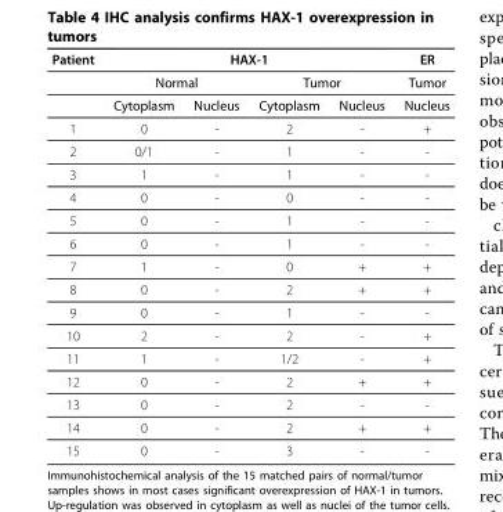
<table><thead><tr><td rowspan="3">Patient</td><td colspan="4">HAX-1</td><td rowspan="3">ER Tumor Nucleus</td></tr><tr><td colspan="2">Normal</td><td colspan="2">Tumor</td></tr><tr><td>Cytoplasm</td><td>Nucleus</td><td>Cytoplasm</td><td>Nucleus</td></tr></thead><tbody><tr><td>1</td><td>0</td><td>-</td><td>2</td><td>-</td><td>+</td></tr><tr><td>2</td><td>0/1</td><td>-</td><td>1</td><td>-</td><td>-</td></tr><tr><td>3</td><td>1</td><td>-</td><td>1</td><td>-</td><td>-</td></tr><tr><td>4</td><td>0</td><td>-</td><td>0</td><td>-</td><td>-</td></tr><tr><td>5</td><td>0</td><td>-</td><td>1</td><td>-</td><td>-</td></tr><tr><td>6</td><td>0</td><td>-</td><td>1</td><td>-</td><td>-</td></tr><tr><td>7</td><td>1</td><td>-</td><td>0</td><td>+</td><td>+</td></tr><tr><td>8</td><td>0</td><td>-</td><td>2</td><td>+</td><td>+</td></tr><tr><td>9</td><td>0</td><td>-</td><td>1</td><td>-</td><td>-</td></tr><tr><td>10</td><td>2</td><td>-</td><td>2</td><td>-</td><td>+</td></tr><tr><td>11</td><td>1</td><td>-</td><td>1/2</td><td>-</td><td>+</td></tr><tr><td>12</td><td>0</td><td>-</td><td>2</td><td>+</td><td>+</td></tr><tr><td>13</td><td>0</td><td>-</td><td>2</td><td>-</td><td>-</td></tr><tr><td>14</td><td>0</td><td>-</td><td>2</td><td>+</td><td>+</td></tr><tr><td>15</td><td>0</td><td>-</td><td>3</td><td>-</td><td>-</td></tr></tbody></table>